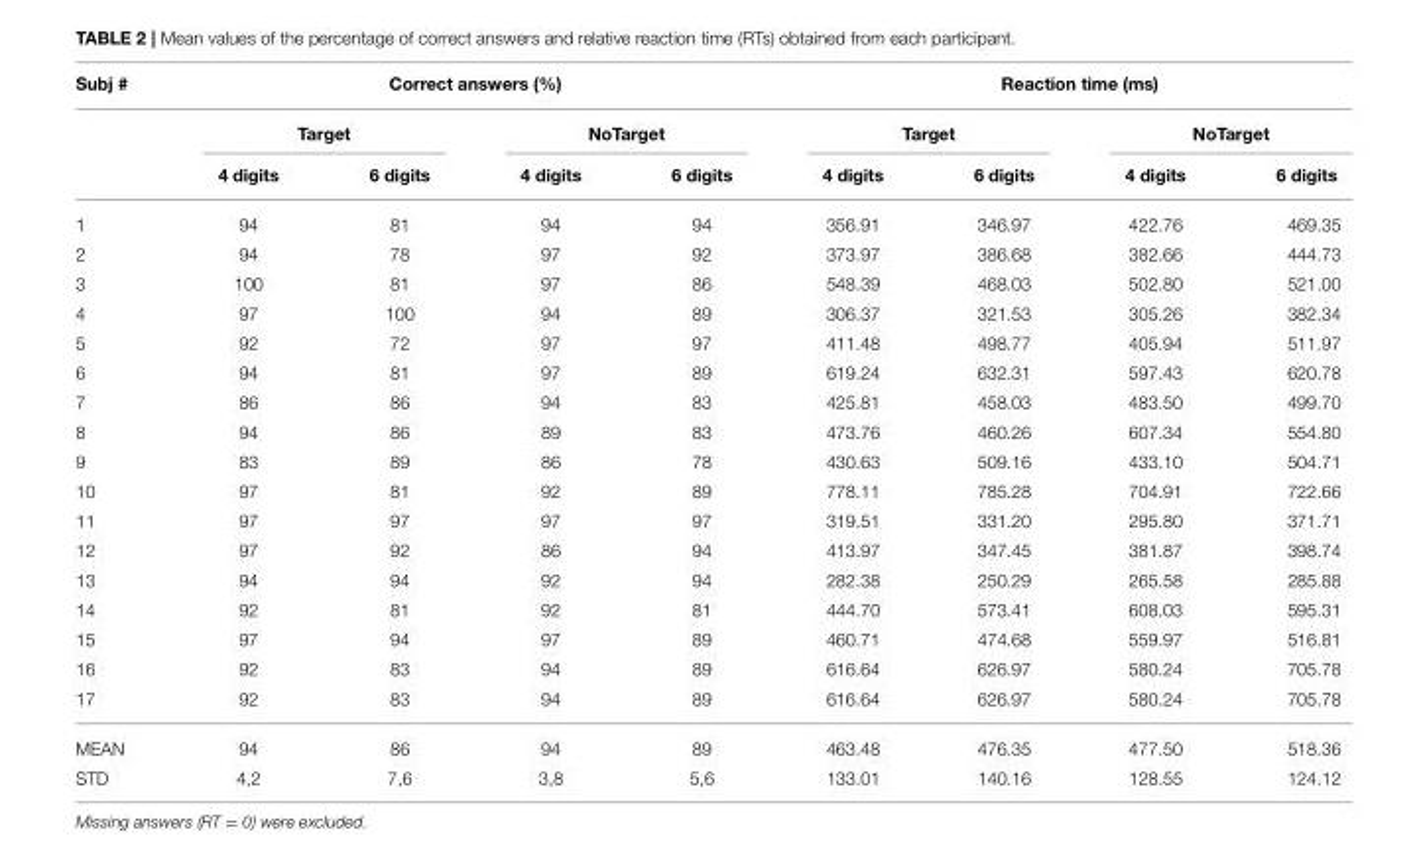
<table><thead><tr><td rowspan="3">Subj #</td><td colspan="4">Correct answers (%)</td><td colspan="4">Reaction time (ms)</td></tr><tr><td colspan="2">Target</td><td colspan="2">NoTarget</td><td colspan="2">Target</td><td colspan="2">NoTarget</td></tr><tr><td>4 digits</td><td>6 digits</td><td>4 digits</td><td>6 digits</td><td>4 digits</td><td>6 digits</td><td>4 digits</td><td>6 digits</td></tr></thead><tbody><tr><td>1</td><td>94</td><td>81</td><td>94</td><td>94</td><td>356.91</td><td>346.97</td><td>422.76</td><td>469.35</td></tr><tr><td>2</td><td>94</td><td>78</td><td>97</td><td>92</td><td>373.97</td><td>386.68</td><td>382.66</td><td>444.73</td></tr><tr><td>3</td><td>100</td><td>81</td><td>97</td><td>86</td><td>548.39</td><td>468.03</td><td>502.80</td><td>521.00</td></tr><tr><td>4</td><td>97</td><td>100</td><td>94</td><td>89</td><td>306.37</td><td>321.53</td><td>305.26</td><td>382.34</td></tr><tr><td>5</td><td>92</td><td>72</td><td>97</td><td>97</td><td>411.48</td><td>498.77</td><td>405.94</td><td>511.97</td></tr><tr><td>6</td><td>94</td><td>81</td><td>97</td><td>89</td><td>619.24</td><td>632.31</td><td>597.43</td><td>620.78</td></tr><tr><td>7</td><td>86</td><td>86</td><td>94</td><td>83</td><td>425.81</td><td>458.03</td><td>483.50</td><td>499.70</td></tr><tr><td>8</td><td>94</td><td>86</td><td>89</td><td>83</td><td>473.76</td><td>460.26</td><td>607.34</td><td>554.80</td></tr><tr><td>9</td><td>83</td><td>89</td><td>86</td><td>78</td><td>430.63</td><td>509.16</td><td>433.10</td><td>504.71</td></tr><tr><td>10</td><td>97</td><td>81</td><td>92</td><td>89</td><td>778.11</td><td>785.28</td><td>704.91</td><td>722.66</td></tr><tr><td>11</td><td>97</td><td>97</td><td>97</td><td>97</td><td>319.51</td><td>331.20</td><td>295.80</td><td>371.71</td></tr><tr><td>12</td><td>97</td><td>92</td><td>86</td><td>94</td><td>413.97</td><td>347.45</td><td>381.87</td><td>398.74</td></tr><tr><td>13</td><td>94</td><td>94</td><td>92</td><td>94</td><td>282.38</td><td>250.29</td><td>265.58</td><td>285.88</td></tr><tr><td>14</td><td>92</td><td>81</td><td>92</td><td>81</td><td>444.70</td><td>573.41</td><td>608.03</td><td>595.31</td></tr><tr><td>15</td><td>97</td><td>94</td><td>97</td><td>89</td><td>460.71</td><td>474.68</td><td>559.97</td><td>516.81</td></tr><tr><td>16</td><td>92</td><td>83</td><td>94</td><td>89</td><td>616.64</td><td>626.97</td><td>580.24</td><td>705.78</td></tr><tr><td>17</td><td>92</td><td>83</td><td>94</td><td>89</td><td>616.64</td><td>626.97</td><td>580.24</td><td>705.78</td></tr><tr><td>MEAN</td><td>94</td><td>86</td><td>94</td><td>89</td><td>463.48</td><td>476.35</td><td>477.50</td><td>518.36</td></tr><tr><td>STD</td><td>4,2</td><td>7,6</td><td>3,8</td><td>5,6</td><td>133.01</td><td>140.16</td><td>128.55</td><td>124.12</td></tr></tbody></table>